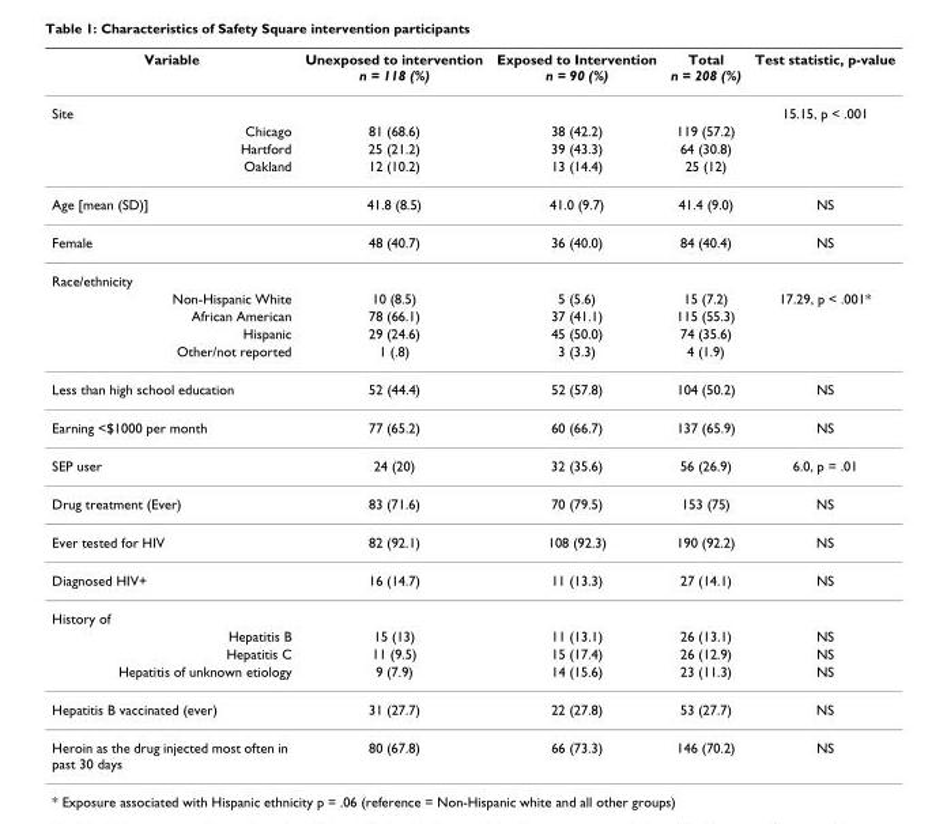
<table><thead><tr><td>Variable</td><td>Unexposed to intervention n = 118 (%)</td><td>Exposed to Intervention n = 90 (%)</td><td>Total n = 208 (%)</td><td>Test statistic, p-value</td></tr></thead><tbody><tr><td>Site</td><td></td><td></td><td></td><td>15.15, p &lt; .001</td></tr><tr><td>Chicago</td><td>81 (68.6)</td><td>38 (42.2)</td><td>119 (57.2)</td><td></td></tr><tr><td>Hartford</td><td>25 (21.2)</td><td>39 (43.3)</td><td>64 (30.8)</td><td></td></tr><tr><td>Oakland</td><td>12 (10.2)</td><td>13 (14.4)</td><td>25 (12)</td><td></td></tr><tr><td>Age [mean (SD)]</td><td>41.8 (8.5)</td><td>41.0 (9.7)</td><td>41.4 (9.0)</td><td>NS</td></tr><tr><td>Female</td><td>48 (40.7)</td><td>36 (40.0)</td><td>84 (40.4)</td><td>NS</td></tr><tr><td colspan="5">Race/ethnicity</td></tr><tr><td>Non-Hispanic White</td><td>10 (8.5)</td><td>5 (5.6)</td><td>15 (7.2)</td><td>17.29, p &lt; .001*</td></tr><tr><td>African American</td><td>78 (66.1)</td><td>37 (41.1)</td><td>115 (55.3)</td><td></td></tr><tr><td>Hispanic</td><td>29 (24.6)</td><td>45 (50.0)</td><td>74 (35.6)</td><td></td></tr><tr><td>Other/not reported</td><td>1 (.8)</td><td>3 (3.3)</td><td>4 (1.9)</td><td></td></tr><tr><td>Less than high school education</td><td>52 (44.4)</td><td>52 (57.8)</td><td>104 (50.2)</td><td>NS</td></tr><tr><td>Earning &lt;$1000 per month</td><td>77 (65.2)</td><td>60 (66.7)</td><td>137 (65.9)</td><td>NS</td></tr><tr><td>SEP user</td><td>24 (20)</td><td>32 (35.6)</td><td>56 (26.9)</td><td>6.0, p = .01</td></tr><tr><td>Drug treatment (Ever)</td><td>83 (71.6)</td><td>70 (79.5)</td><td>153 (75)</td><td>NS</td></tr><tr><td>Ever tested for HIV</td><td>82 (92.1)</td><td>108 (92.3)</td><td>190 (92.2)</td><td>NS</td></tr><tr><td>Diagnosed HIV+</td><td>16 (14.7)</td><td>11 (13.3)</td><td>27 (14.1)</td><td>NS</td></tr><tr><td colspan="5">History of</td></tr><tr><td>Hepatitis B</td><td>15 (13)</td><td>11 (13.1)</td><td>26 (13.1)</td><td>NS</td></tr><tr><td>Hepatitis C</td><td>11 (9.5)</td><td>15 (17.4)</td><td>26 (12.9)</td><td>NS</td></tr><tr><td>Hepatitis of unknown etiology</td><td>9 (7.9)</td><td>14 (15.6)</td><td>23 (11.3)</td><td>NS</td></tr><tr><td>Hepatitis B vaccinated (ever)</td><td>31 (27.7)</td><td>22 (27.8)</td><td>53 (27.7)</td><td>NS</td></tr><tr><td>Heroin as the drug injected most often in past 30 days</td><td>80 (67.8)</td><td>66 (73.3)</td><td>146 (70.2)</td><td>NS</td></tr></tbody></table>